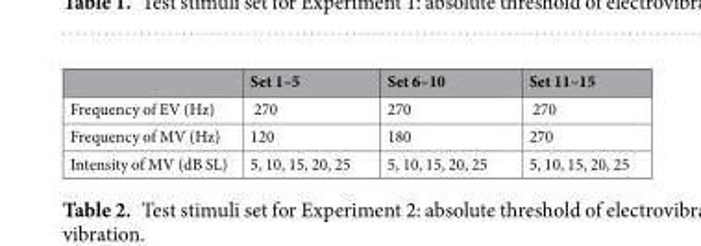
<table><thead><tr><td></td><td>Set 1–5</td><td>Set 6–10</td><td>Set 11–15</td></tr></thead><tbody><tr><td>Frequency of EV (Hz)</td><td>270</td><td>270</td><td>270</td></tr><tr><td>Frequency of MV (Hz)</td><td>120</td><td>180</td><td>270</td></tr><tr><td>Intensity of MV (dB SL)</td><td>5, 10, 15, 20, 25</td><td>5, 10, 15, 20, 25</td><td>5, 10, 15, 20, 25</td></tr></tbody></table>